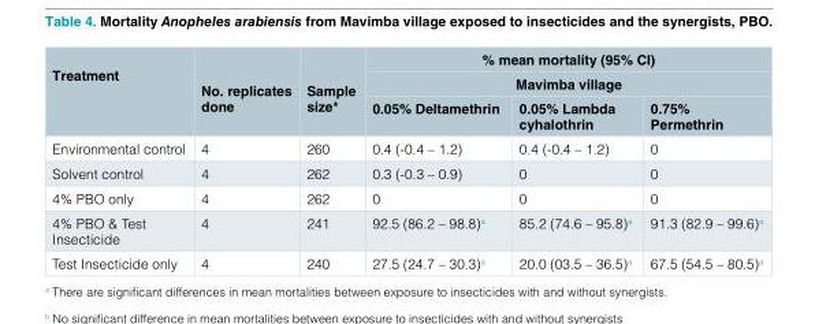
<table><thead><tr><td rowspan="3">Treatment</td><td rowspan="3">No. replicates done</td><td rowspan="3">Sample size*</td><td rowspan="2" colspan="3">% mean mortality (95% CI) Mavimba village</td></tr><tr></tr><tr><td>0.05% Deltamethrin</td><td>0.05% Lambda cyhalothrin</td><td>0.75% Permethrin</td></tr></thead><tbody><tr><td>Environmental control</td><td>4</td><td>260</td><td>0.4 (-0.4 – 1.2)</td><td>0.4 (-0.4 – 1.2)</td><td>0</td></tr><tr><td>Solvent control</td><td>4</td><td>262</td><td>0.3 (-0.3 – 0.9)</td><td>0</td><td>0</td></tr><tr><td>4% PBO only</td><td>4</td><td>262</td><td>0</td><td>0</td><td>0</td></tr><tr><td>4% PBO &amp; Test Insecticide</td><td>4</td><td>241</td><td>92.5 (86.2 – 98.8)<sup>a</sup></td><td>85.2 (74.6 – 95.8)<sup>a</sup></td><td>91.3 (82.9 – 99.6)<sup>a</sup></td></tr><tr><td>Test Insecticide only</td><td>4</td><td>240</td><td>27.5 (24.7 – 30.3)<sup>a</sup></td><td>20.0 (03.5 – 36.5)<sup>a</sup></td><td>67.5 (54.5 – 80.5)<sup>a</sup></td></tr></tbody></table>